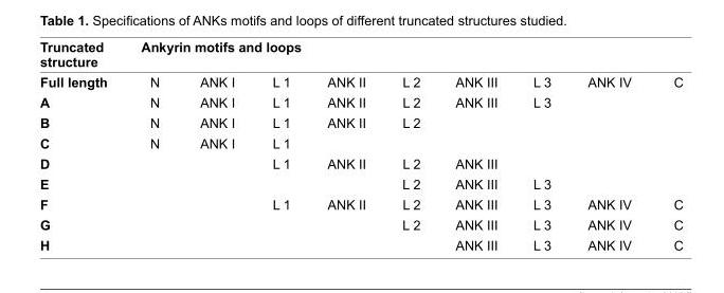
<table><thead><tr><td rowspan="2">Truncated structure Full length</td><td colspan="9">Ankyrin motifs and loops</td></tr><tr><td>N</td><td>ANK I</td><td>L 1</td><td>ANK II</td><td>L 2</td><td>ANK III</td><td>L 3</td><td>ANK IV</td><td>C</td></tr></thead><tbody><tr><td>A</td><td>N</td><td>ANK I</td><td>L 1</td><td>ANK II</td><td>L 2</td><td>ANK III</td><td>L 3</td><td></td><td></td></tr><tr><td>B</td><td>N</td><td>ANK I</td><td>L 1</td><td>ANK II</td><td>L 2</td><td></td><td></td><td></td><td></td></tr><tr><td>C</td><td>N</td><td>ANK I</td><td>L 1</td><td></td><td></td><td></td><td></td><td></td><td></td></tr><tr><td>D</td><td></td><td></td><td>L 1</td><td>ANK II</td><td>L 2</td><td>ANK III</td><td></td><td></td><td></td></tr><tr><td>E</td><td></td><td></td><td></td><td></td><td>L 2</td><td>ANK III</td><td>L 3</td><td></td><td></td></tr><tr><td>F</td><td></td><td></td><td>L 1</td><td>ANK II</td><td>L 2</td><td>ANK III</td><td>L 3</td><td>ANK IV</td><td>C</td></tr><tr><td>G</td><td></td><td></td><td></td><td></td><td>L 2</td><td>ANK III</td><td>L 3</td><td>ANK IV</td><td>C</td></tr><tr><td>H</td><td></td><td></td><td></td><td></td><td></td><td>ANK III</td><td>L 3</td><td>ANK IV</td><td>C</td></tr></tbody></table>